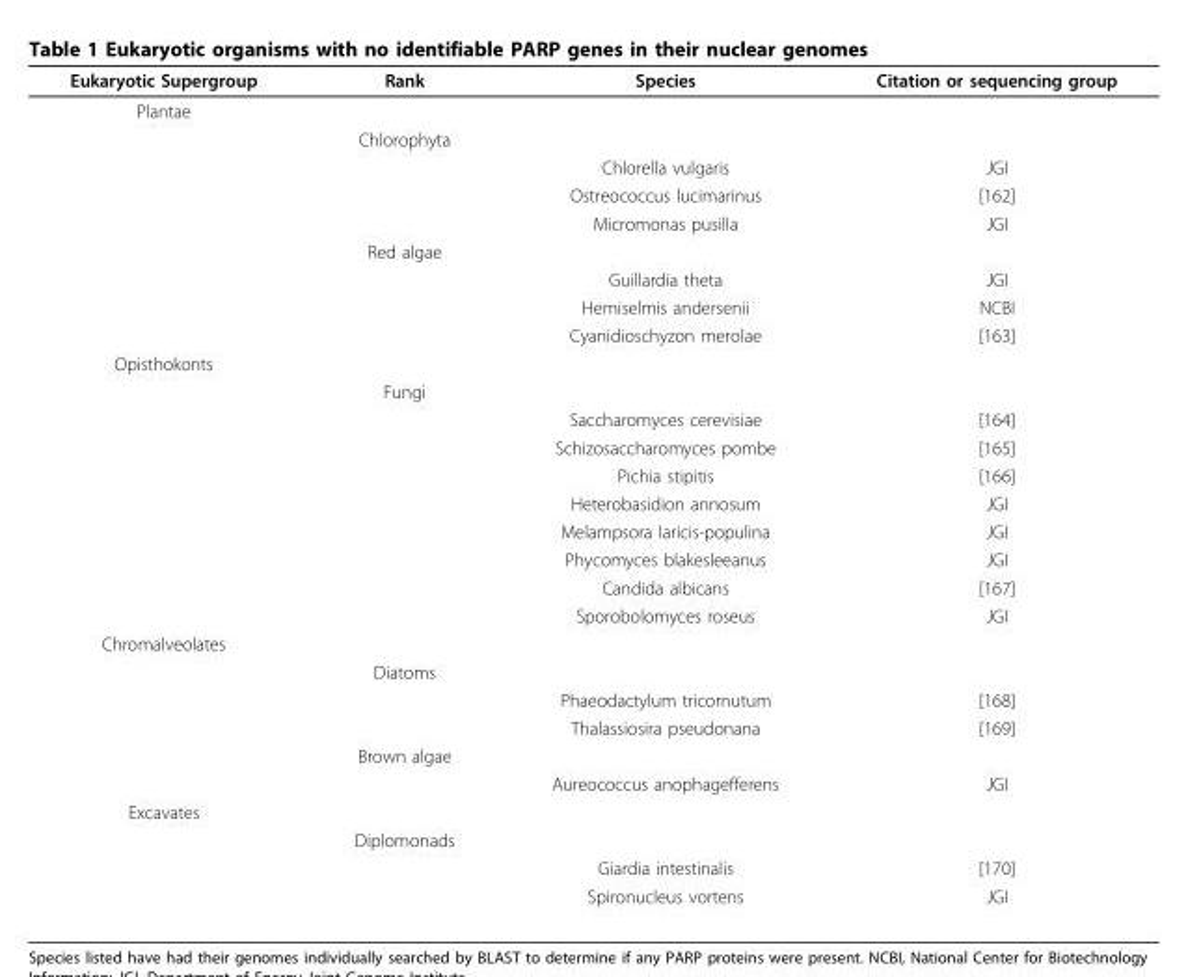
<table><thead><tr><td>Eukaryotic Supergroup</td><td>Rank</td><td>Species</td><td>Citation or sequencing group</td></tr></thead><tbody><tr><td colspan="4">Plantae</td></tr><tr><td></td><td>Chlorophyta</td><td></td><td></td></tr><tr><td></td><td></td><td>Chlorella vulgaris</td><td>JGI</td></tr><tr><td></td><td></td><td>Ostreococcus lucimarinus</td><td>[162]</td></tr><tr><td></td><td></td><td>Micromonas pusilla</td><td>JGI</td></tr><tr><td></td><td>Red algae</td><td></td><td></td></tr><tr><td></td><td></td><td>Guillardia theta</td><td>JGI</td></tr><tr><td></td><td></td><td>Hemiselmis andersenii</td><td>NCBI</td></tr><tr><td></td><td></td><td>Cyanidioschyzon merolae</td><td>[163]</td></tr><tr><td colspan="4">Opisthokonts</td></tr><tr><td></td><td>Fungi</td><td></td><td></td></tr><tr><td></td><td></td><td>Saccharomyces cerevisiae</td><td>[164]</td></tr><tr><td></td><td></td><td>Schizosaccharomyces pombe</td><td>[165]</td></tr><tr><td></td><td></td><td>Pichia stipitis</td><td>[166]</td></tr><tr><td></td><td></td><td>Heterobasidion annosum</td><td>JGI</td></tr><tr><td></td><td></td><td>Melampsora laricis-populina</td><td>JGI</td></tr><tr><td></td><td></td><td>Phycomyces blakesleeanus</td><td>JGI</td></tr><tr><td></td><td></td><td>Candida albicans</td><td>[167]</td></tr><tr><td></td><td></td><td>Sporobolomyces roseus</td><td>JGI</td></tr><tr><td colspan="4">Chromalveolates</td></tr><tr><td></td><td>Diatoms</td><td></td><td></td></tr><tr><td></td><td></td><td>Phaeodactylum tricornutum</td><td>[168]</td></tr><tr><td></td><td></td><td>Thalassiosira pseudonana</td><td>[169]</td></tr><tr><td></td><td>Brown algae</td><td></td><td></td></tr><tr><td></td><td></td><td>Aureococcus anophagefferens</td><td>JGI</td></tr><tr><td colspan="4">Excavates</td></tr><tr><td></td><td>Diplomonads</td><td></td><td></td></tr><tr><td></td><td></td><td>Giardia intestinalis</td><td>[170]</td></tr><tr><td></td><td></td><td>Spironucleus vortens</td><td>JGI</td></tr></tbody></table>